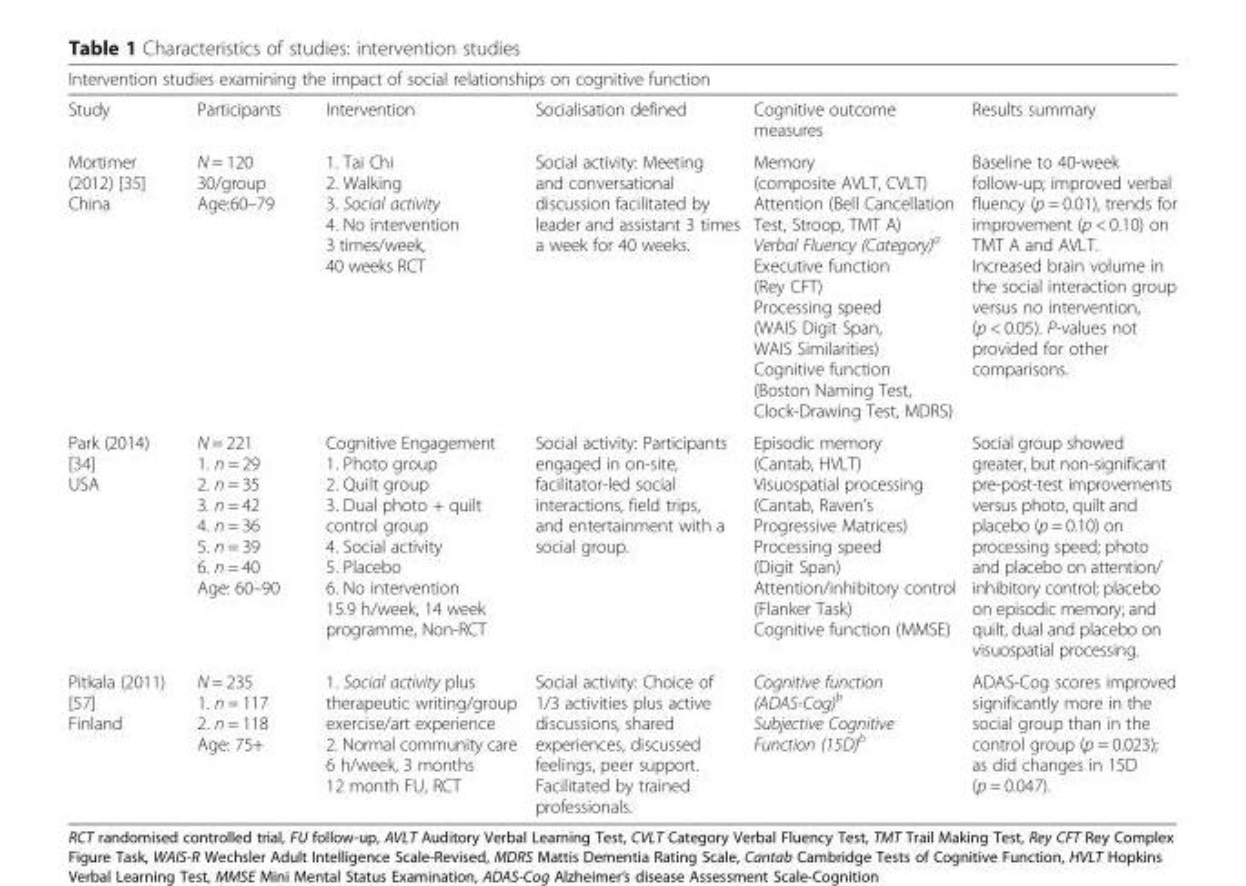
<table><thead><tr><td colspan="6">Intervention studies examining the impact of social relationships on cognitive function</td></tr><tr><td>Study</td><td>Participants</td><td>Intervention</td><td>Socialisation defined</td><td>Cognitive outcome measures</td><td>Results summary</td></tr></thead><tbody><tr><td>Mortimer (2012) [35] China</td><td>N = 120 30/group Age:60–79</td><td>1. Tai Chi 2. Walking 3. Social activity 4. No intervention 3 times/week, 40 weeks RCT</td><td>Social activity: Meeting and conversational discussion facilitated by leader and assistant 3 times a week for 40 weeks.</td><td>Memory (composite AVLT, CVLT) Attention (Bell Cancellation Test, Stroop, TMT A) Verbal Fluency (Category)<sup>a</sup> Executive function (Rey CFT) Processing speed (WAIS Digit Span, WAIS Similarities) Cognitive function (Boston Naming Test, Clock-Drawing Test, MDRS)</td><td>Baseline to 40-week follow-up; improved verbal fluency (p = 0.01), trends for improvement (p &lt; 0.10) on TMT A and AVLT. Increased brain volume in the social interaction group versus no intervention, (p &lt; 0.05). P-values not provided for other comparisons.</td></tr><tr><td>Park (2014) [34] USA</td><td>N = 221 1. n = 29 2. n = 35 3. n = 42 4. n = 36 5. n = 39 6. n = 40 Age: 60–90</td><td>Cognitive Engagement 1. Photo group 2. Quilt group 3. Dual photo + quilt control group 4. Social activity 5. Placebo 6. No intervention 15.9 h/week, 14 week programme, Non-RCT</td><td>Social activity: Participants engaged in on-site, facilitator-led social interactions, field trips, and entertainment with a social group.</td><td>Episodic memory (Cantab, HVLT) Visuospatial processing (Cantab, Raven’s Progressive Matrices) Processing speed (Digit Span) Attention/inhibitory control (Flanker Task) Cognitive function (MMSE)</td><td>Social group showed greater, but non-significant pre-post-test improvements versus photo, quilt and placebo (p = 0.10) on processing speed; photo and placebo on attention/ inhibitory control; placebo on episodic memory; and quilt, dual and placebo on visuospatial processing.</td></tr><tr><td>Pitkala (2011) [57] Finland</td><td>N = 235 1. n = 117 2. n = 118 Age: 75+</td><td>1. Social activity plus therapeutic writing/group exercise/art experience 2. Normal community care 6 h/week, 3 months 12 month FU, RCT</td><td>Social activity: Choice of 1/3 activities plus active discussions, shared experiences, discussed feelings, peer support. Facilitated by trained professionals.</td><td>Cognitive function (ADAS-Cog)<sup>b</sup> Subjective Cognitive Function (15D)<sup>b</sup></td><td>ADAS-Cog scores improved significantly more in the social group than in the control group (p = 0.023); as did changes in 15D (p = 0.047).</td></tr></tbody></table>